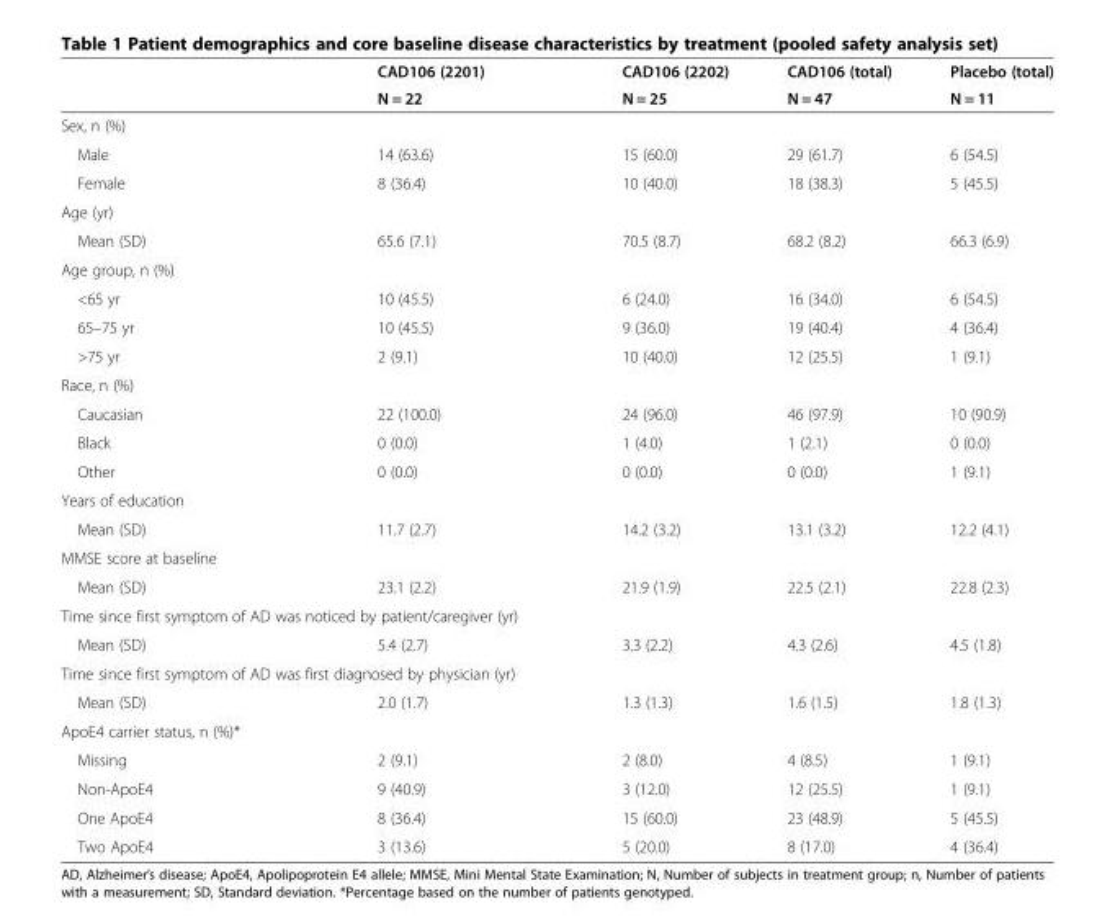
<table><thead><tr><td rowspan="2"></td><td rowspan="2">CAD106 (2201) N = 22</td><td rowspan="2">CAD106 (2202) N = 25</td><td rowspan="2">CAD106 (total) N = 47</td><td rowspan="2">Placebo (total) N = 11</td></tr><tr></tr></thead><tbody><tr><td colspan="5">Sex, n (%)</td></tr><tr><td>Male</td><td>14 (63.6)</td><td>15 (60.0)</td><td>29 (61.7)</td><td>6 (54.5)</td></tr><tr><td>Female</td><td>8 (36.4)</td><td>10 (40.0)</td><td>18 (38.3)</td><td>5 (45.5)</td></tr><tr><td colspan="5">Age (yr)</td></tr><tr><td>Mean (SD)</td><td>65.6 (7.1)</td><td>70.5 (8.7)</td><td>68.2 (8.2)</td><td>66.3 (6.9)</td></tr><tr><td colspan="5">Age group, n (%)</td></tr><tr><td>&lt;65 yr</td><td>10 (45.5)</td><td>6 (24.0)</td><td>16 (34.0)</td><td>6 (54.5)</td></tr><tr><td>65–75 yr</td><td>10 (45.5)</td><td>9 (36.0)</td><td>19 (40.4)</td><td>4 (36.4)</td></tr><tr><td>&gt;75 yr</td><td>2 (9.1)</td><td>10 (40.0)</td><td>12 (25.5)</td><td>1 (9.1)</td></tr><tr><td colspan="5">Race, n (%)</td></tr><tr><td>Caucasian</td><td>22 (100.0)</td><td>24 (96.0)</td><td>46 (97.9)</td><td>10 (90.9)</td></tr><tr><td>Black</td><td>0 (0.0)</td><td>1 (4.0)</td><td>1 (2.1)</td><td>0 (0.0)</td></tr><tr><td>Other</td><td>0 (0.0)</td><td>0 (0.0)</td><td>0 (0.0)</td><td>1 (9.1)</td></tr><tr><td colspan="5">Years of education</td></tr><tr><td>Mean (SD)</td><td>11.7 (2.7)</td><td>14.2 (3.2)</td><td>13.1 (3.2)</td><td>12.2 (4.1)</td></tr><tr><td colspan="5">MMSE score at baseline</td></tr><tr><td>Mean (SD)</td><td>23.1 (2.2)</td><td>21.9 (1.9)</td><td>22.5 (2.1)</td><td>22.8 (2.3)</td></tr><tr><td colspan="5">Time since first symptom of AD was noticed by patient/caregiver (yr)</td></tr><tr><td>Mean (SD)</td><td>5.4 (2.7)</td><td>3.3 (2.2)</td><td>4.3 (2.6)</td><td>4.5 (1.8)</td></tr><tr><td colspan="5">Time since first symptom of AD was first diagnosed by physician (yr)</td></tr><tr><td>Mean (SD)</td><td>2.0 (1.7)</td><td>1.3 (1.3)</td><td>1.6 (1.5)</td><td>1.8 (1.3)</td></tr><tr><td colspan="5">ApoE4 carrier status, n (%)*</td></tr><tr><td>Missing</td><td>2 (9.1)</td><td>2 (8.0)</td><td>4 (8.5)</td><td>1 (9.1)</td></tr><tr><td>Non-ApoE4</td><td>9 (40.9)</td><td>3 (12.0)</td><td>12 (25.5)</td><td>1 (9.1)</td></tr><tr><td>One ApoE4</td><td>8 (36.4)</td><td>15 (60.0)</td><td>23 (48.9)</td><td>5 (45.5)</td></tr><tr><td>Two ApoE4</td><td>3 (13.6)</td><td>5 (20.0)</td><td>8 (17.0)</td><td>4 (36.4)</td></tr></tbody></table>